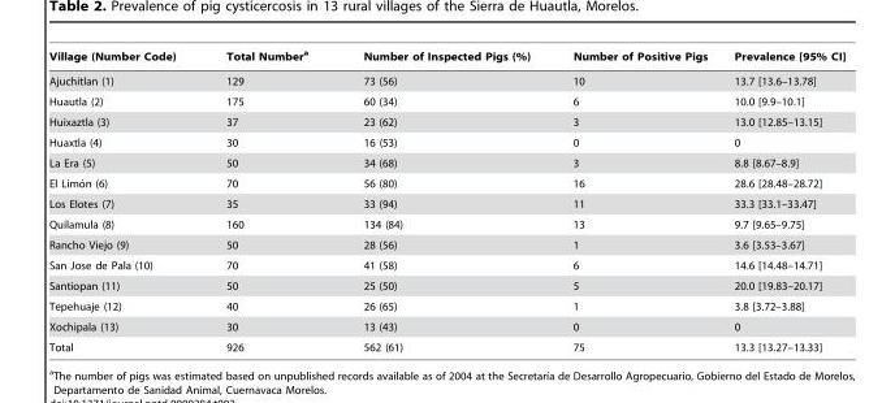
<table><thead><tr><td>Village (Number Code)</td><td>Total Number<sup>a</sup></td><td>Number of Inspected Pigs (%)</td><td>Number of Positive Pigs</td><td>Prevalence [95% CI]</td></tr></thead><tbody><tr><td>Ajuchitlan (1)</td><td>129</td><td>73 (56)</td><td>10</td><td>13.7 [13.6–13.78]</td></tr><tr><td>Huautla (2)</td><td>175</td><td>60 (34)</td><td>6</td><td>10.0 [9.9–10.1]</td></tr><tr><td>Huixaztla (3)</td><td>37</td><td>23 (62)</td><td>3</td><td>13.0 [12.85–13.15]</td></tr><tr><td>Huaxtla (4)</td><td>30</td><td>16 (53)</td><td>0</td><td>0</td></tr><tr><td>La Era (5)</td><td>50</td><td>34 (68)</td><td>3</td><td>8.8 [8.67–8.9]</td></tr><tr><td>El Limo´n (6)</td><td>70</td><td>56 (80)</td><td>16</td><td>28.6 [28.48–28.72]</td></tr><tr><td>Los Elotes (7)</td><td>35</td><td>33 (94)</td><td>11</td><td>33.3 [33.1–33.47]</td></tr><tr><td>Quilamula (8)</td><td>160</td><td>134 (84)</td><td>13</td><td>9.7 [9.65–9.75]</td></tr><tr><td>Rancho Viejo (9)</td><td>50</td><td>28 (56)</td><td>1</td><td>3.6 [3.53–3.67]</td></tr><tr><td>San Jose de Pala (10)</td><td>70</td><td>41 (58)</td><td>6</td><td>14.6 [14.48–14.71]</td></tr><tr><td>Santiopan (11)</td><td>50</td><td>25 (50)</td><td>5</td><td>20.0 [19.83–20.17]</td></tr><tr><td>Tepehuaje (12)</td><td>40</td><td>26 (65)</td><td>1</td><td>3.8 [3.72–3.88]</td></tr><tr><td>Xochipala (13)</td><td>30</td><td>13 (43)</td><td>0</td><td>0</td></tr><tr><td>Total</td><td>926</td><td>562 (61)</td><td>75</td><td>13.3 [13.27–13.33]</td></tr></tbody></table>